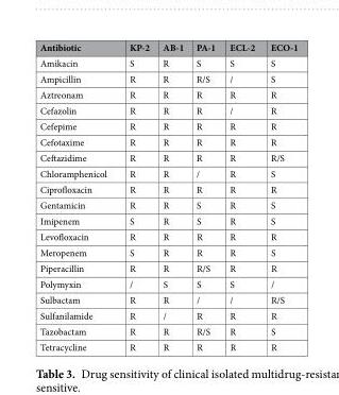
<table><thead><tr><td>Antibiotic</td><td>KP-2</td><td>AB-1</td><td>PA-1</td><td>ECL-2</td><td>ECO-1</td></tr></thead><tbody><tr><td>Amikacin</td><td>S</td><td>R</td><td>S</td><td>S</td><td>S</td></tr><tr><td>Ampicillin</td><td>R</td><td>R</td><td>R/S</td><td>/</td><td>S</td></tr><tr><td>Aztreonam</td><td>R</td><td>R</td><td>R</td><td>R</td><td>R</td></tr><tr><td>Cefazolin</td><td>R</td><td>R</td><td>R</td><td>/</td><td>R</td></tr><tr><td>Cefepime</td><td>R</td><td>R</td><td>R</td><td>R</td><td>R</td></tr><tr><td>Cefotaxime</td><td>R</td><td>R</td><td>R</td><td>R</td><td>R</td></tr><tr><td>Ceftazidime</td><td>R</td><td>R</td><td>R</td><td>R</td><td>R/S</td></tr><tr><td>Chloramphenicol</td><td>R</td><td>R</td><td>/</td><td>R</td><td>S</td></tr><tr><td>Ciprofloxacin</td><td>R</td><td>R</td><td>R</td><td>R</td><td>R</td></tr><tr><td>Gentamicin</td><td>R</td><td>R</td><td>S</td><td>R</td><td>S</td></tr><tr><td>Imipenem</td><td>S</td><td>R</td><td>S</td><td>R</td><td>S</td></tr><tr><td>Levofloxacin</td><td>R</td><td>R</td><td>R</td><td>R</td><td>R</td></tr><tr><td>Meropenem</td><td>S</td><td>R</td><td>R</td><td>R</td><td>S</td></tr><tr><td>Piperacillin</td><td>R</td><td>R</td><td>R/S</td><td>R</td><td>R</td></tr><tr><td>Polymyxin</td><td>/</td><td>S</td><td>S</td><td>S</td><td>/</td></tr><tr><td>Sulbactam</td><td>R</td><td>R</td><td>/</td><td>/</td><td>R/S</td></tr><tr><td>Sulfanilamide</td><td>R</td><td>/</td><td>R</td><td>R</td><td>R</td></tr><tr><td>Tazobactam</td><td>R</td><td>R</td><td>R/S</td><td>R</td><td>S</td></tr><tr><td>Tetracycline</td><td>R</td><td>R</td><td>R</td><td>R</td><td>R</td></tr></tbody></table>